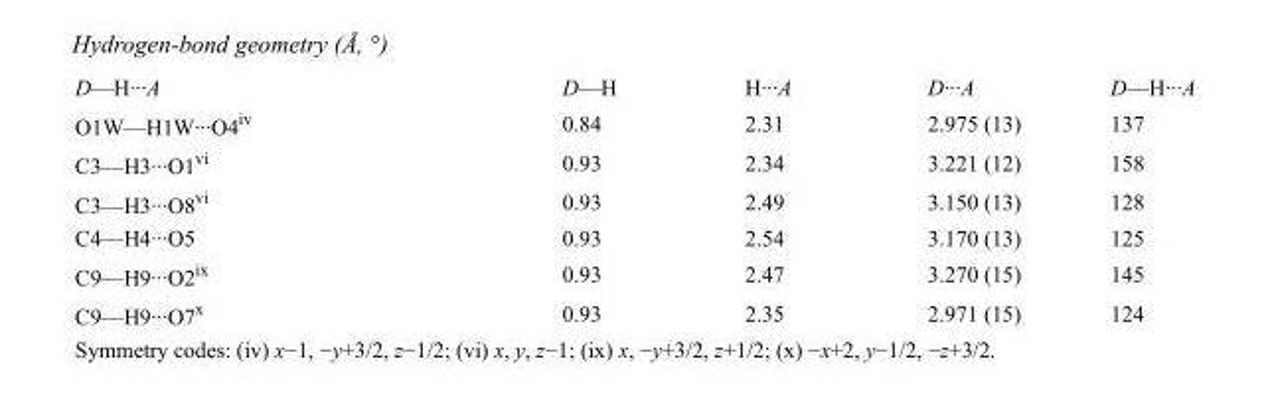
<table><tbody><tr><td>D—H···A</td><td>D—H</td><td>H···A</td><td>D···A</td><td>D—H···A</td></tr><tr><td>O1W—H1W···O4<sup>iv</sup></td><td>0.84</td><td>2.31</td><td>2.975 (13)</td><td>137</td></tr><tr><td>C3—H3···O1<sup>vi</sup></td><td>0.93</td><td>2.34</td><td>3.221 (12)</td><td>158</td></tr><tr><td>C3—H3···O8<sup>vi</sup></td><td>0.93</td><td>2.49</td><td>3.150 (13)</td><td>128</td></tr><tr><td>C4—H4···O5</td><td>0.93</td><td>2.54</td><td>3.170 (13)</td><td>125</td></tr><tr><td>C9—H9···O2<sup>ix</sup></td><td>0.93</td><td>2.47</td><td>3.270 (15)</td><td>145</td></tr><tr><td>C9—H9···O7<sup>x</sup></td><td>0.93</td><td>2.35</td><td>2.971 (15)</td><td>124</td></tr></tbody></table>